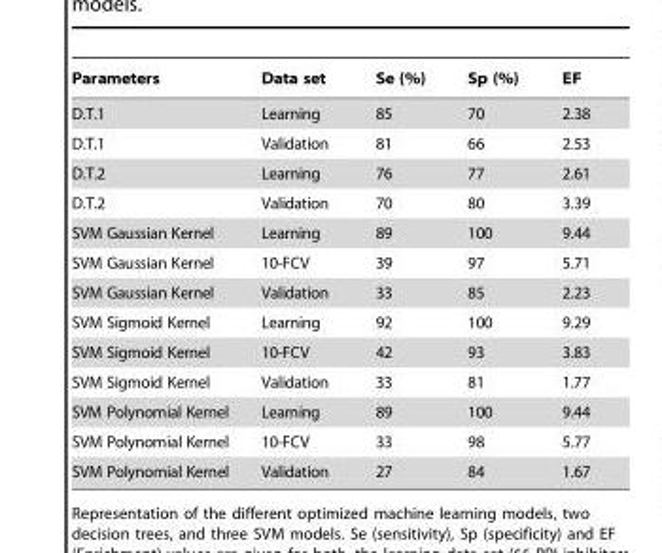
<table><thead><tr><td>Parameters</td><td>Data set</td><td>Se (%)</td><td>Sp (%)</td><td>EF</td></tr></thead><tbody><tr><td>D.T.1</td><td>Learning</td><td>85</td><td>70</td><td>2.38</td></tr><tr><td>D.T.1</td><td>Validation</td><td>81</td><td>66</td><td>2.53</td></tr><tr><td>D.T.2</td><td>Learning</td><td>76</td><td>77</td><td>2.61</td></tr><tr><td>D.T.2</td><td>Validation</td><td>70</td><td>80</td><td>3.39</td></tr><tr><td>SVM Gaussian Kernel</td><td>Learning</td><td>89</td><td>100</td><td>9.44</td></tr><tr><td>SVM Gaussian Kernel</td><td>10-FCV</td><td>39</td><td>97</td><td>5.71</td></tr><tr><td>SVM Gaussian Kernel</td><td>Validation</td><td>33</td><td>85</td><td>2.23</td></tr><tr><td>SVM Sigmoid Kernel</td><td>Learning</td><td>92</td><td>100</td><td>9.29</td></tr><tr><td>SVM Sigmoid Kernel</td><td>10-FCV</td><td>42</td><td>93</td><td>3.83</td></tr><tr><td>SVM Sigmoid Kernel</td><td>Validation</td><td>33</td><td>81</td><td>1.77</td></tr><tr><td>SVM Polynomial Kernel</td><td>Learning</td><td>89</td><td>100</td><td>9.44</td></tr><tr><td>SVM Polynomial Kernel</td><td>10-FCV</td><td>33</td><td>98</td><td>5.77</td></tr><tr><td>SVM Polynomial Kernel</td><td>Validation</td><td>27</td><td>84</td><td>1.67</td></tr></tbody></table>